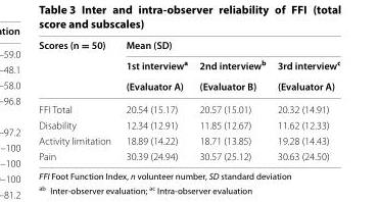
<table><thead><tr><td rowspan="3">Scores (n = 50)</td><td colspan="3">Mean (SD)</td></tr><tr><td rowspan="2">1st interview<sup>a</sup> (Evaluator A)</td><td rowspan="2">2nd interview<sup>b</sup> (Evaluator B)</td><td rowspan="2">3rd interview<sup>c</sup> (Evaluator A)</td></tr><tr></tr></thead><tbody><tr><td>FFI Total</td><td>20.54 (15.17)</td><td>20.57 (15.01)</td><td>20.32 (14.91)</td></tr><tr><td>Disability</td><td>12.34 (12.91)</td><td>11.85 (12.67)</td><td>11.62 (12.33)</td></tr><tr><td>Activity limitation</td><td>18.89 (14.22)</td><td>18.71 (13.85)</td><td>19.28 (14.43)</td></tr><tr><td>Pain</td><td>30.39 (24.94)</td><td>30.57 (25.12)</td><td>30.63 (24.50)</td></tr></tbody></table>